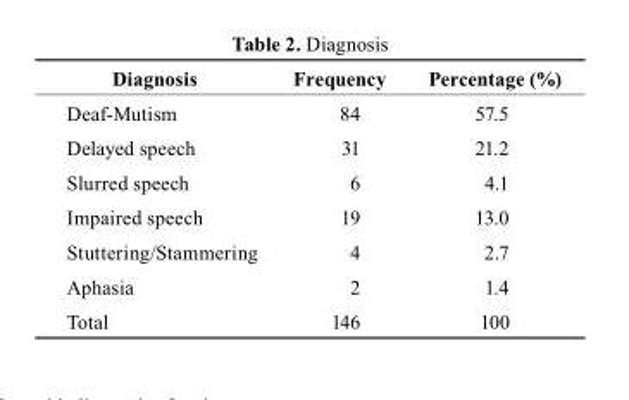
<table><thead><tr><td>Diagnosis</td><td>Frequency</td><td>Percentage (%)</td></tr></thead><tbody><tr><td>Deaf-Mutism</td><td>84</td><td>57.5</td></tr><tr><td>Delayed speech</td><td>31</td><td>21.2</td></tr><tr><td>Slurred speech</td><td>6</td><td>4.1</td></tr><tr><td>Impaired speech</td><td>19</td><td>13.0</td></tr><tr><td>Stuttering/Stammering</td><td>4</td><td>2.7</td></tr><tr><td>Aphasia</td><td>2</td><td>1.4</td></tr><tr><td>Total</td><td>146</td><td>100</td></tr></tbody></table>